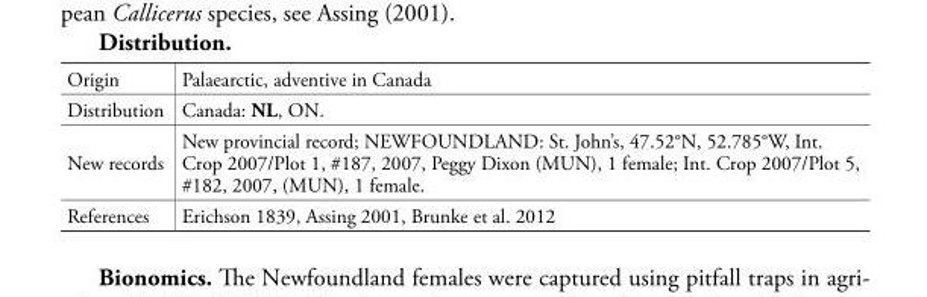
<table><tbody><tr><td>Origin</td><td>Palaearctic, adventive in Canada</td></tr><tr><td>Distribution</td><td>Canada: NL, ON.</td></tr><tr><td>New records</td><td>New provincial record; NEWFOUNDLAND: St. John’s, 47.52°N, 52.785°W, Int. Crop 2007/Plot 1, #187, 2007, Peggy Dixon (MUN), 1 female; Int. Crop 2007/Plot 5, #182, 2007, (MUN), 1 female.</td></tr><tr><td>References</td><td>Erichson 1839, Assing 2001, Brunke et al. 2012</td></tr></tbody></table>